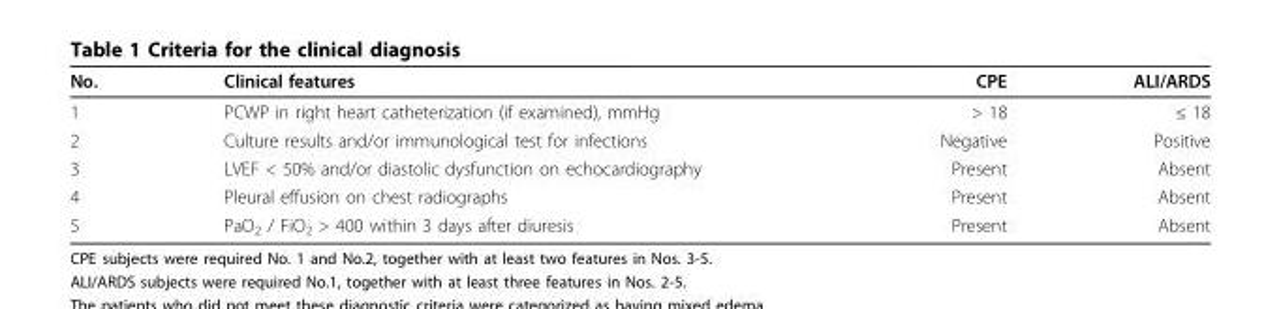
<table><thead><tr><td>No.</td><td>Clinical features</td><td>CPE</td><td>ALI/ARDS</td></tr></thead><tbody><tr><td>1</td><td>PCWP in right heart catheterization (if examined), mmHg</td><td>&gt; 18</td><td>≤ 18</td></tr><tr><td>2</td><td>Culture results and/or immunological test for infections</td><td>Negative</td><td>Positive</td></tr><tr><td>3</td><td>LVEF &lt; 50% and/or diastolic dysfunction on echocardiography</td><td>Present</td><td>Absent</td></tr><tr><td>4</td><td>Pleural effusion on chest radiographs</td><td>Present</td><td>Absent</td></tr><tr><td>5</td><td>PaO<sub>2</sub> / FiO<sub>2</sub> &gt; 400 within 3 days after diuresis</td><td>Present</td><td>Absent</td></tr></tbody></table>